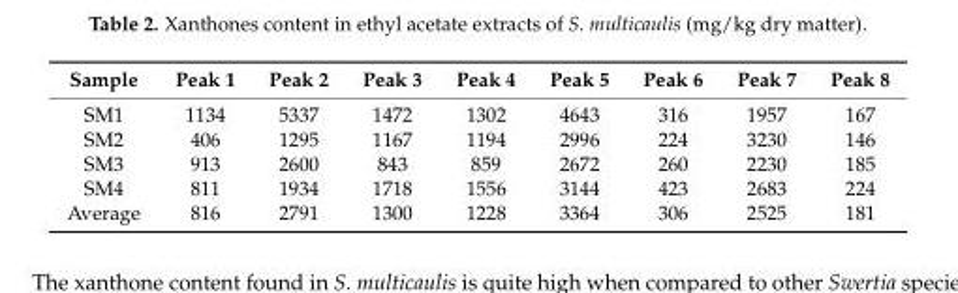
<table><thead><tr><td>Sample</td><td>Peak 1</td><td>Peak 2</td><td>Peak 3</td><td>Peak 4</td><td>Peak 5</td><td>Peak 6</td><td>Peak 7</td><td>Peak 8</td></tr></thead><tbody><tr><td>SM1</td><td>1134</td><td>5337</td><td>1472</td><td>1302</td><td>4643</td><td>316</td><td>1957</td><td>167</td></tr><tr><td>SM2</td><td>406</td><td>1295</td><td>1167</td><td>1194</td><td>2996</td><td>224</td><td>3230</td><td>146</td></tr><tr><td>SM3</td><td>913</td><td>2600</td><td>843</td><td>859</td><td>2672</td><td>260</td><td>2230</td><td>185</td></tr><tr><td>SM4</td><td>811</td><td>1934</td><td>1718</td><td>1556</td><td>3144</td><td>423</td><td>2683</td><td>224</td></tr><tr><td>Average</td><td>816</td><td>2791</td><td>1300</td><td>1228</td><td>3364</td><td>306</td><td>2525</td><td>181</td></tr></tbody></table>